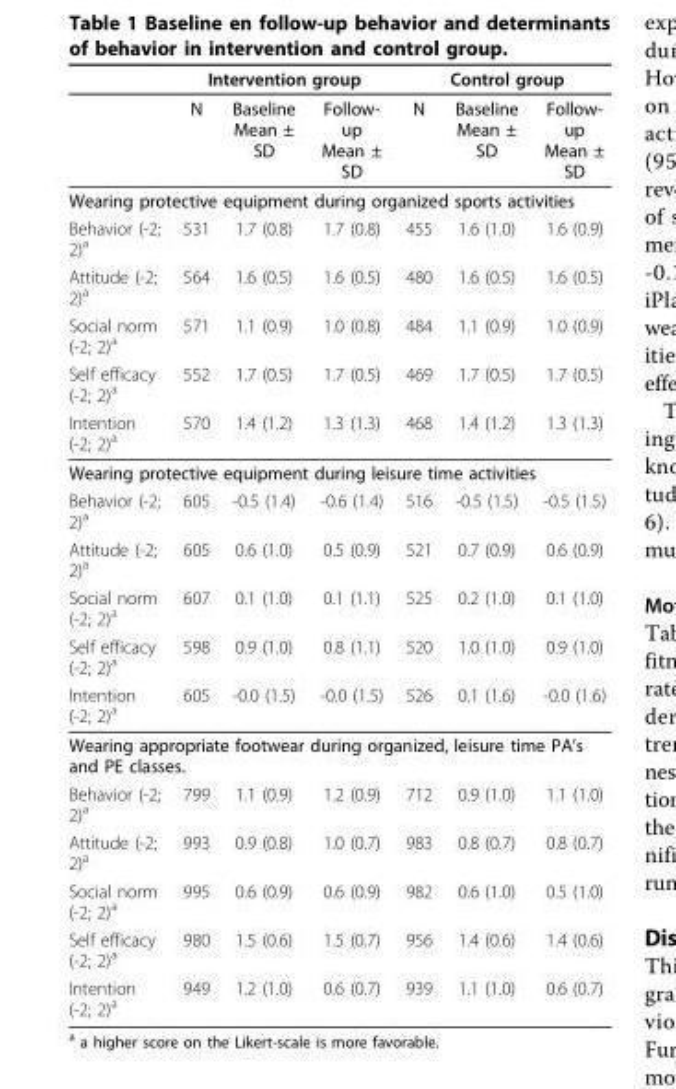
<table><thead><tr><td rowspan="2"></td><td colspan="3">Intervention group</td><td colspan="3">Control group</td></tr><tr><td>N</td><td>Baseline Mean ± SD</td><td>Follow- up Mean ± SD</td><td>N</td><td>Baseline Mean ± SD</td><td>Follow- up Mean ± SD</td></tr></thead><tbody><tr><td colspan="7">Wearing protective equipment during organized sports activities</td></tr><tr><td>Behavior (-2; 2)<sup>a</sup></td><td>531</td><td>1.7 (0.8)</td><td>1.7 (0.8)</td><td>455</td><td>1.6 (1.0)</td><td>1.6 (0.9)</td></tr><tr><td>Attitude (-2; 2)<sup>a</sup></td><td>564</td><td>1.6 (0.5)</td><td>1.6 (0.5)</td><td>480</td><td>1.6 (0.5)</td><td>1.6 (0.5)</td></tr><tr><td>Social norm (-2; 2)<sup>a</sup></td><td>571</td><td>1.1 (0.9)</td><td>1.0 (0.8)</td><td>484</td><td>1.1 (0.9)</td><td>1.0 (0.9)</td></tr><tr><td>Self efficacy (-2; 2)<sup>a</sup></td><td>552</td><td>1.7 (0.5)</td><td>1.7 (0.5)</td><td>469</td><td>1.7 (0.5)</td><td>1.7 (0.5)</td></tr><tr><td>Intention (-2; 2)<sup>a</sup></td><td>570</td><td>1.4 (1.2)</td><td>1.3 (1.3)</td><td>468</td><td>1.4 (1.2)</td><td>1.3 (1.3)</td></tr><tr><td colspan="7">Wearing protective equipment during leisure time activities</td></tr><tr><td>Behavior (-2; 2)<sup>a</sup></td><td>605</td><td>-0.5 (1.4)</td><td>-0.6 (1.4)</td><td>516</td><td>-0.5 (1.5)</td><td>-0.5 (1.5)</td></tr><tr><td>Attitude (-2; 2)<sup>a</sup></td><td>605</td><td>0.6 (1.0)</td><td>0.5 (0.9)</td><td>521</td><td>0.7 (0.9)</td><td>0.6 (0.9)</td></tr><tr><td>Social norm (-2; 2)<sup>a</sup></td><td>607</td><td>0.1 (1.0)</td><td>0.1 (1.1)</td><td>525</td><td>0.2 (1.0)</td><td>0.1 (1.0)</td></tr><tr><td>Self efficacy (-2; 2)<sup>a</sup></td><td>598</td><td>0.9 (1.0)</td><td>0.8 (1.1)</td><td>520</td><td>1.0 (1.0)</td><td>0.9 (1.0)</td></tr><tr><td>Intention (-2; 2)<sup>a</sup></td><td>605</td><td>-0.0 (1.5)</td><td>-0.0 (1.5)</td><td>526</td><td>0.1 (1.6)</td><td>-0.0 (1.6)</td></tr><tr><td colspan="7">Wearing appropriate footwear during organized, leisure time PA’s and PE classes.</td></tr><tr><td>Behavior (-2; 2)<sup>a</sup></td><td>799</td><td>1.1 (0.9)</td><td>1.2 (0.9)</td><td>712</td><td>0.9 (1.0)</td><td>1.1 (1.0)</td></tr><tr><td>Attitude (-2; 2)<sup>a</sup></td><td>993</td><td>0.9 (0.8)</td><td>1.0 (0.7)</td><td>983</td><td>0.8 (0.7)</td><td>0.8 (0.7)</td></tr><tr><td>Social norm (-2; 2)<sup>a</sup></td><td>995</td><td>0.6 (0.9)</td><td>0.6 (0.9)</td><td>982</td><td>0.6 (1.0)</td><td>0.5 (1.0)</td></tr><tr><td>Self efficacy (-2; 2)<sup>a</sup></td><td>980</td><td>1.5 (0.6)</td><td>1.5 (0.7)</td><td>956</td><td>1.4 (0.6)</td><td>1.4 (0.6)</td></tr><tr><td>Intention (-2; 2)<sup>a</sup></td><td>949</td><td>1.2 (1.0)</td><td>0.6 (0.7)</td><td>939</td><td>1.1 (1.0)</td><td>0.6 (0.7)</td></tr></tbody></table>